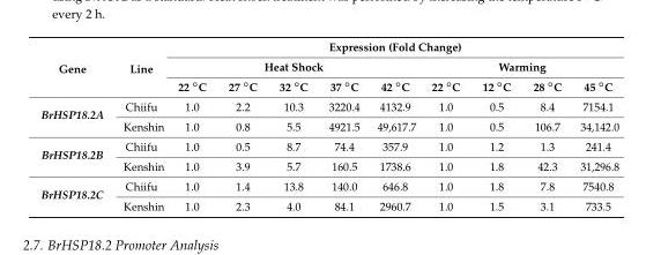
<table><thead><tr><td rowspan="3">Gene</td><td rowspan="3">Line</td><td colspan="9">Expression (Fold Change)</td></tr><tr><td colspan="5">Heat Shock</td><td colspan="4">Warming</td></tr><tr><td>22 ◦C</td><td>27 ◦C</td><td>32 ◦C</td><td>37 ◦C</td><td>42 ◦C</td><td>22 ◦C</td><td>12 ◦C</td><td>28 ◦C</td><td>45 ◦C</td></tr></thead><tbody><tr><td rowspan="2">BrHSP18.2A</td><td>Chiifu</td><td>1.0</td><td>2.2</td><td>10.3</td><td>3220.4</td><td>4132.9</td><td>1.0</td><td>0.5</td><td>8.4</td><td>7154.1</td></tr><tr><td>Kenshin</td><td>1.0</td><td>0.8</td><td>5.5</td><td>4921.5</td><td>49,617.7</td><td>1.0</td><td>0.5</td><td>106.7</td><td>34,142.0</td></tr><tr><td rowspan="2">BrHSP18.2B</td><td>Chiifu</td><td>1.0</td><td>0.5</td><td>8.7</td><td>74.4</td><td>357.9</td><td>1.0</td><td>1.2</td><td>1.3</td><td>241.4</td></tr><tr><td>Kenshin</td><td>1.0</td><td>3.9</td><td>5.7</td><td>160.5</td><td>1738.6</td><td>1.0</td><td>1.8</td><td>42.3</td><td>31,296.8</td></tr><tr><td rowspan="2">BrHSP18.2C</td><td>Chiifu</td><td>1.0</td><td>1.4</td><td>13.8</td><td>140.0</td><td>646.8</td><td>1.0</td><td>1.8</td><td>7.8</td><td>7540.8</td></tr><tr><td>Kenshin</td><td>1.0</td><td>2.3</td><td>4.0</td><td>84.1</td><td>2960.7</td><td>1.0</td><td>1.5</td><td>3.1</td><td>733.5</td></tr></tbody></table>